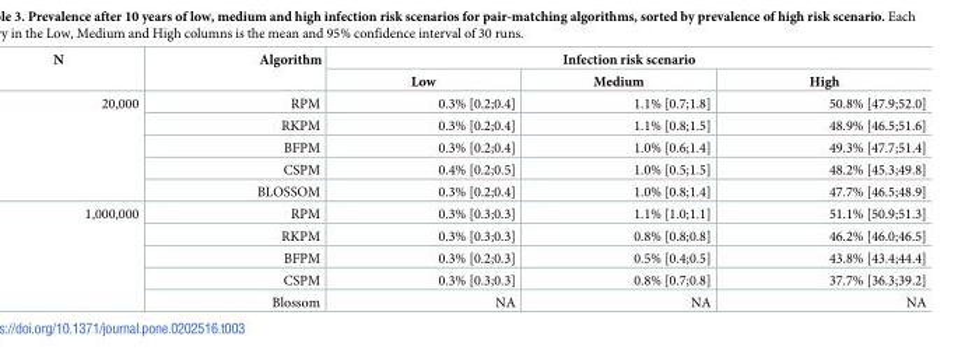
<table><thead><tr><td rowspan="2">N</td><td rowspan="2">Algorithm</td><td colspan="3">Infection risk scenario</td></tr><tr><td>Low</td><td>Medium</td><td>High</td></tr></thead><tbody><tr><td rowspan="5">20,000</td><td>RPM</td><td>0.3% [0.2;0.4]</td><td>1.1% [0.7;1.8]</td><td>50.8% [47.9;52.0]</td></tr><tr><td>RKPM</td><td>0.3% [0.2;0.4]</td><td>1.1% [0.8;1.5]</td><td>48.9% [46.5;51.6]</td></tr><tr><td>BFPM</td><td>0.3% [0.2;0.4]</td><td>1.0% [0.6;1.4]</td><td>49.3% [47.7;51.4]</td></tr><tr><td>CSPM</td><td>0.4% [0.2;0.5]</td><td>1.0% [0.5;1.5]</td><td>48.2% [45.3;49.8]</td></tr><tr><td>BLOSSOM</td><td>0.3% [0.2;0.4]</td><td>1.0% [0.8;1.4]</td><td>47.7% [46.5;48.9]</td></tr><tr><td rowspan="5">1,000,000</td><td>RPM</td><td>0.3% [0.3;0.3]</td><td>1.1% [1.0;1.1]</td><td>51.1% [50.9;51.3]</td></tr><tr><td>RKPM</td><td>0.3% [0.3;0.3]</td><td>0.8% [0.8;0.8]</td><td>46.2% [46.0;46.5]</td></tr><tr><td>BFPM</td><td>0.3% [0.2;0.3]</td><td>0.5% [0.4;0.5]</td><td>43.8% [43.4;44.4]</td></tr><tr><td>CSPM</td><td>0.3% [0.3;0.3]</td><td>0.8% [0.7;0.8]</td><td>37.7% [36.3;39.2]</td></tr><tr><td>Blossom</td><td>NA</td><td>NA</td><td>NA</td></tr></tbody></table>